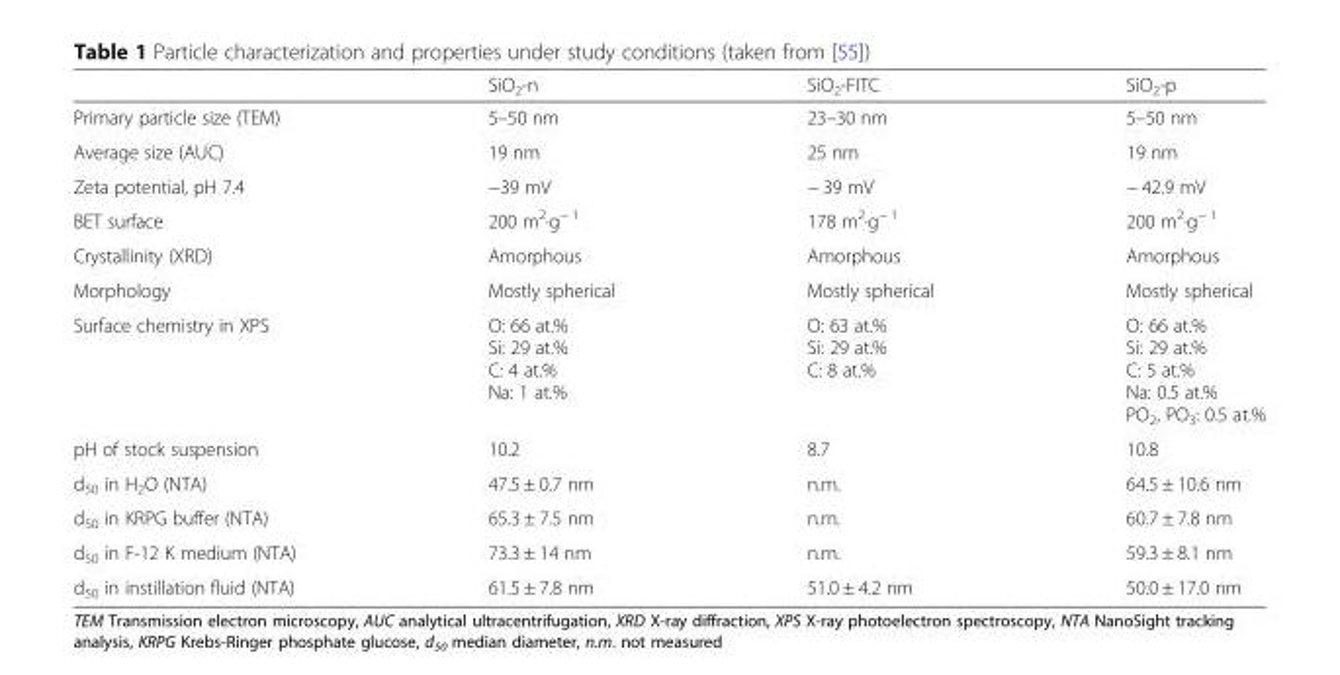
<table><thead><tr><td></td><td>SiO<sub>2</sub>-n</td><td>SiO<sub>2</sub>-FITC</td><td>SiO<sub>2</sub>-p</td></tr></thead><tbody><tr><td>Primary particle size (TEM)</td><td>5–50 nm</td><td>23–30 nm</td><td>5–50 nm</td></tr><tr><td>Average size (AUC)</td><td>19 nm</td><td>25 nm</td><td>19 nm</td></tr><tr><td>Zeta potential, pH 7.4</td><td>−39 mV</td><td>− 39 mV</td><td>− 42.9 mV</td></tr><tr><td>BET surface</td><td>200 m<sup>2</sup>·g<sup>− 1</sup></td><td>178 m<sup>2</sup>·g<sup>− 1</sup></td><td>200 m<sup>2</sup>·g<sup>− 1</sup></td></tr><tr><td>Crystallinity (XRD)</td><td>Amorphous</td><td>Amorphous</td><td>Amorphous</td></tr><tr><td>Morphology</td><td>Mostly spherical</td><td>Mostly spherical</td><td>Mostly spherical</td></tr><tr><td>Surface chemistry in XPS</td><td>O: 66 at.% Si: 29 at.% C: 4 at.% Na: 1 at.%</td><td>O: 63 at.% Si: 29 at.% C: 8 at.%</td><td>O: 66 at.% Si: 29 at.% C: 5 at.% Na: 0.5 at.% PO<sub>2</sub>, PO<sub>3</sub>: 0.5 at.%</td></tr><tr><td>pH of stock suspension</td><td>10.2</td><td>8.7</td><td>10.8</td></tr><tr><td>d<sub>50</sub> in H<sub>2</sub>O (NTA)</td><td>47.5 ± 0.7 nm</td><td>n.m.</td><td>64.5 ± 10.6 nm</td></tr><tr><td>d<sub>50</sub> in KRPG buffer (NTA)</td><td>65.3 ± 7.5 nm</td><td>n.m.</td><td>60.7 ± 7.8 nm</td></tr><tr><td>d<sub>50</sub> in F-12 K medium (NTA)</td><td>73.3 ± 14 nm</td><td>n.m.</td><td>59.3 ± 8.1 nm</td></tr><tr><td>d<sub>50</sub> in instillation fluid (NTA)</td><td>61.5 ± 7.8 nm</td><td>51.0 ± 4.2 nm</td><td>50.0 ± 17.0 nm</td></tr></tbody></table>